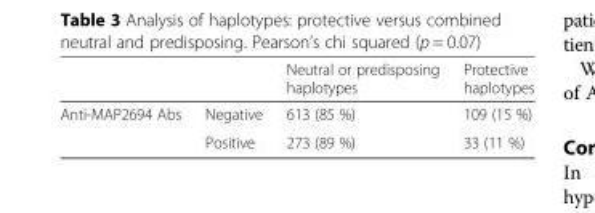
<table><thead><tr><td></td><td></td><td>Neutral or predisposing haplotypes</td><td>Protective haplotypes</td></tr></thead><tbody><tr><td rowspan="2">Anti-MAP2694 Abs</td><td>Negative</td><td>613 (85 %)</td><td>109 (15 %)</td></tr><tr><td>Positive</td><td>273 (89 %)</td><td>33 (11 %)</td></tr></tbody></table>